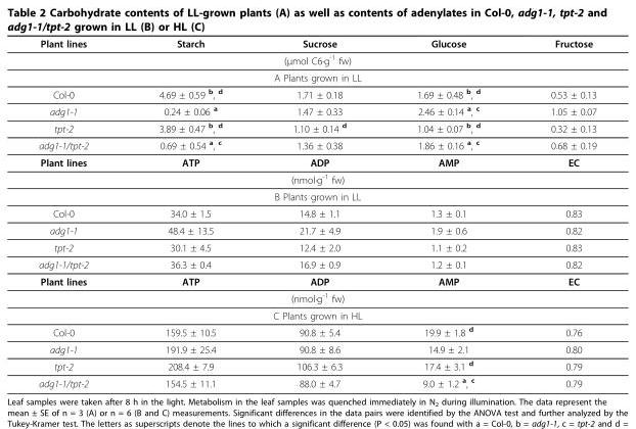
<table><thead><tr><td>Plant lines</td><td>Starch</td><td>Sucrose</td><td>Glucose</td><td>Fructose</td></tr></thead><tbody><tr><td colspan="5">(μmol C6·g<sup>-1</sup> fw)</td></tr><tr><td colspan="5">A Plants grown in LL</td></tr><tr><td>Col-0</td><td>4.69 ± 0.59 <sup>b</sup>, <sup>d</sup></td><td>1.71 ± 0.18</td><td>1.69 ± 0.48 <sup>b</sup>, <sup>d</sup></td><td>0.53 ± 0.13</td></tr><tr><td>adg1-1</td><td>0.24 ± 0.06 <sup>a</sup></td><td>1.47 ± 0.33</td><td>2.46 ± 0.14 <sup>a</sup>, <sup>c</sup></td><td>1.05 ± 0.07</td></tr><tr><td>tpt-2</td><td>3.89 ± 0.47 <sup>b</sup>, <sup>d</sup></td><td>1.10 ± 0.14 <sup>d</sup></td><td>1.04 ± 0.07 <sup>b</sup>, <sup>d</sup></td><td>0.32 ± 0.13</td></tr><tr><td>adg1-1/tpt-2</td><td>0.69 ± 0.54 <sup>a</sup>, <sup>c</sup></td><td>1.36 ± 0.38</td><td>1.86 ± 0.16 <sup>a</sup>, <sup>c</sup></td><td>0.68 ± 0.19</td></tr><tr><td>Plant lines</td><td>ATP</td><td>ADP</td><td>AMP</td><td>EC</td></tr><tr><td colspan="5">(nmol·g<sup>-1</sup> fw)</td></tr><tr><td colspan="5">B Plants grown in LL</td></tr><tr><td>Col-0</td><td>34.0 ± 1.5</td><td>14.8 ± 1.1</td><td>1.3 ± 0.1</td><td>0.83</td></tr><tr><td>adg1-1</td><td>48.4 ± 13.5</td><td>21.7 ± 4.9</td><td>1.9 ± 0.6</td><td>0.82</td></tr><tr><td>tpt-2</td><td>30.1 ± 4.5</td><td>12.4 ± 2.0</td><td>1.1 ± 0.2</td><td>0.83</td></tr><tr><td>adg1-1/tpt-2</td><td>36.3 ± 0.4</td><td>16.9 ± 0.9</td><td>1.2 ± 0.1</td><td>0.82</td></tr><tr><td>Plant lines</td><td>ATP</td><td>ADP</td><td>AMP</td><td>EC</td></tr><tr><td colspan="5">(nmol·g<sup>-1</sup> fw)</td></tr><tr><td colspan="5">C Plants grown in HL</td></tr><tr><td>Col-0</td><td>159.5 ± 10.5</td><td>90.8 ± 5.4</td><td>19.9 ± 1.8 <sup>d</sup></td><td>0.76</td></tr><tr><td>adg1-1</td><td>191.9 ± 25.4</td><td>90.8 ± 8.6</td><td>14.9 ± 2.1</td><td>0.80</td></tr><tr><td>tpt-2</td><td>208.4 ± 7.9</td><td>106.3 ± 6.3</td><td>17.4 ± 3.1 <sup>d</sup></td><td>0.79</td></tr><tr><td>adg1-1/tpt-2</td><td>154.5 ± 11.1</td><td>88.0 ± 4.7</td><td>9.0 ± 1.2 <sup>a</sup>, <sup>c</sup></td><td>0.79</td></tr></tbody></table>